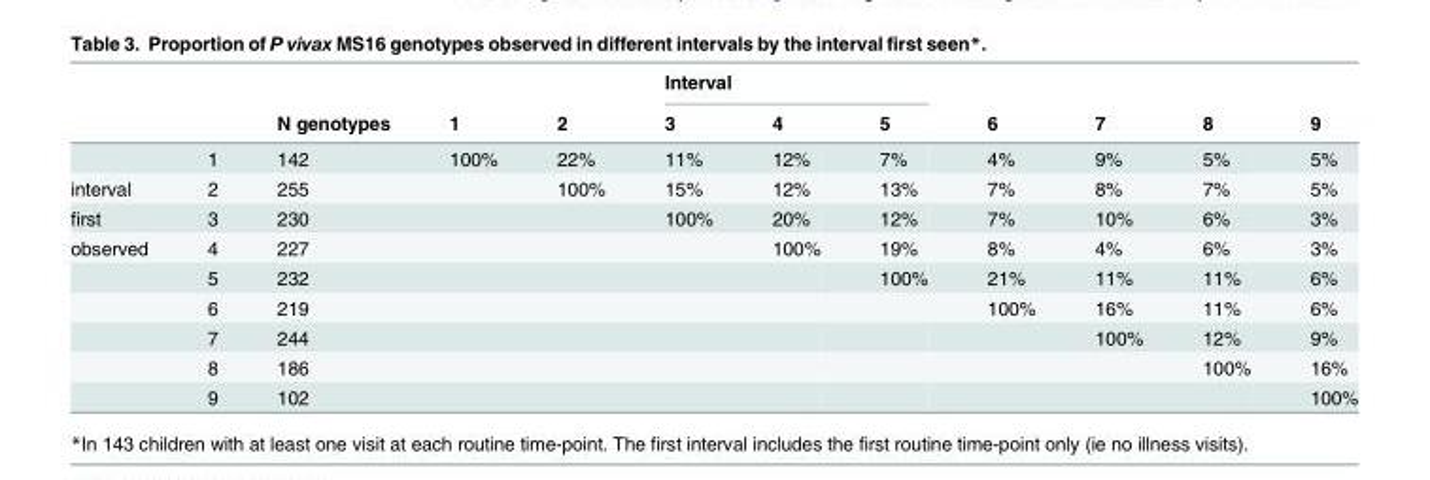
<table><thead><tr><td rowspan="2"></td><td rowspan="2"></td><td rowspan="2">N genotypes</td><td rowspan="2">1</td><td rowspan="2">2</td><td colspan="3">Interval</td><td rowspan="2">6</td><td rowspan="2">7</td><td rowspan="2">8</td><td rowspan="2">9</td></tr><tr><td>3</td><td>4</td><td>5</td></tr></thead><tbody><tr><td></td><td>1</td><td>142</td><td>100%</td><td>22%</td><td>11%</td><td>12%</td><td>7%</td><td>4%</td><td>9%</td><td>5%</td><td>5%</td></tr><tr><td>interval</td><td>2</td><td>255</td><td></td><td>100%</td><td>15%</td><td>12%</td><td>13%</td><td>7%</td><td>8%</td><td>7%</td><td>5%</td></tr><tr><td>first</td><td>3</td><td>230</td><td></td><td></td><td>100%</td><td>20%</td><td>12%</td><td>7%</td><td>10%</td><td>6%</td><td>3%</td></tr><tr><td rowspan="6">observed</td><td>4</td><td>227</td><td></td><td></td><td></td><td>100%</td><td>19%</td><td>8%</td><td>4%</td><td>6%</td><td>3%</td></tr><tr><td>5</td><td>232</td><td></td><td></td><td></td><td></td><td>100%</td><td>21%</td><td>11%</td><td>11%</td><td>6%</td></tr><tr><td>6</td><td>219</td><td></td><td></td><td></td><td></td><td></td><td>100%</td><td>16%</td><td>11%</td><td>6%</td></tr><tr><td>7</td><td>244</td><td></td><td></td><td></td><td></td><td></td><td></td><td>100%</td><td>12%</td><td>9%</td></tr><tr><td>8</td><td>186</td><td></td><td></td><td></td><td></td><td></td><td></td><td></td><td>100%</td><td>16%</td></tr><tr><td>9</td><td>102</td><td></td><td></td><td></td><td></td><td></td><td></td><td></td><td></td><td>100%</td></tr></tbody></table>